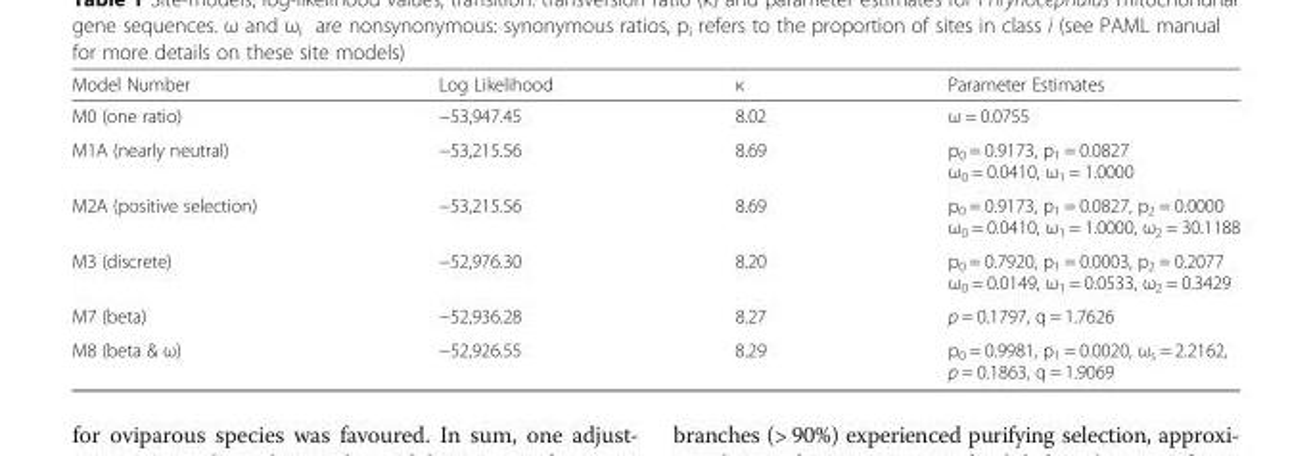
<table><thead><tr><td>Model Number</td><td>Log Likelihood</td><td>κ</td><td>Parameter Estimates</td></tr></thead><tbody><tr><td>M0 (one ratio)</td><td>−53,947.45</td><td>8.02</td><td>ω = 0.0755</td></tr><tr><td>M1A (nearly neutral)</td><td>−53,215.56</td><td>8.69</td><td>p<sub>0</sub> = 0.9173, p<sub>1</sub> = 0.0827 ω<sub>0</sub> = 0.0410, ω<sub>1</sub> = 1.0000</td></tr><tr><td>M2A (positive selection)</td><td>−53,215.56</td><td>8.69</td><td>p<sub>0</sub> = 0.9173, p<sub>1</sub> = 0.0827, p<sub>2</sub> = 0.0000 ω<sub>0</sub> = 0.0410, ω<sub>1</sub> = 1.0000, ω<sub>2</sub> = 30.1188</td></tr><tr><td>M3 (discrete)</td><td>−52,976.30</td><td>8.20</td><td>p<sub>0</sub> = 0.7920, p<sub>1</sub> = 0.0003, p<sub>2</sub> = 0.2077 ω<sub>0</sub> = 0.0149, ω<sub>1</sub> = 0.0533, ω<sub>2</sub> = 0.3429</td></tr><tr><td>M7 (beta)</td><td>−52,936.28</td><td>8.27</td><td>p = 0.1797, q = 1.7626</td></tr><tr><td>M8 (beta &amp; ω)</td><td>−52,926.55</td><td>8.29</td><td>p<sub>0</sub> = 0.9981, p<sub>1</sub> = 0.0020, ω<sub>s</sub> = 2.2162, p = 0.1863, q = 1.9069</td></tr></tbody></table>